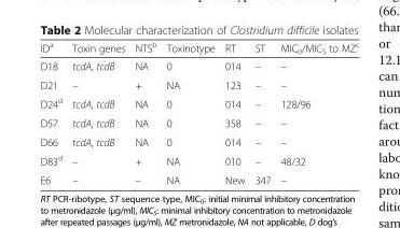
<table><thead><tr><td>ID<sup>a</sup></td><td>Toxin genes</td><td>NTS<sup>b</sup></td><td>Toxinotype</td><td>RT</td><td>ST</td><td>MIC<sub>0</sub>/MIC<sub>S</sub> to MZ<sup>c</sup></td></tr></thead><tbody><tr><td>D18</td><td>tcdA, tcdB</td><td>NA</td><td>0</td><td>014</td><td>–</td><td>–</td></tr><tr><td>D21</td><td>–</td><td>+</td><td>NA</td><td>123</td><td>–</td><td>–</td></tr><tr><td>D24<sup>d</sup></td><td>tcdA, tcdB</td><td>NA</td><td>0</td><td>014</td><td>–</td><td>128/96</td></tr><tr><td>D57</td><td>tcdA, tcdB</td><td>NA</td><td>0</td><td>358</td><td>–</td><td>–</td></tr><tr><td>D66</td><td>tcdA, tcdB</td><td>NA</td><td>0</td><td>014</td><td>–</td><td>–</td></tr><tr><td>D83<sup>d</sup></td><td>–</td><td>+</td><td>NA</td><td>010</td><td>–</td><td>48/32</td></tr><tr><td>E6</td><td>–</td><td>–</td><td>NA</td><td>New</td><td>347</td><td>–</td></tr></tbody></table>